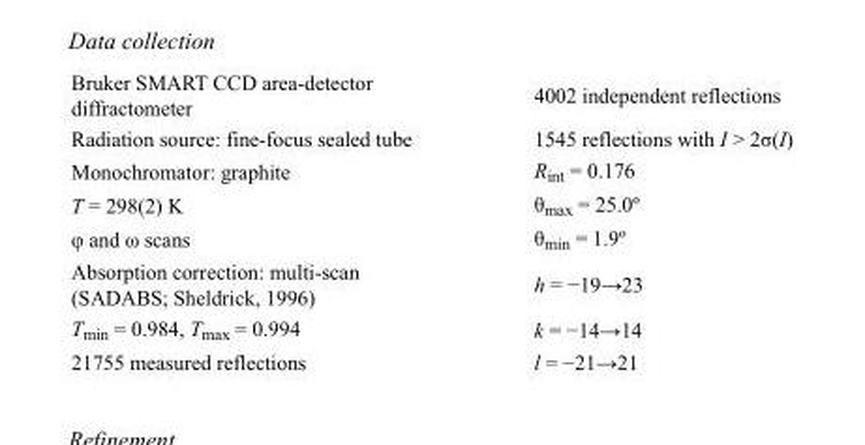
<table><tbody><tr><td>Bruker SMART CCD area-detector diffractometer</td><td>4002 independent reflections</td></tr><tr><td>Radiation source: fine-focus sealed tube</td><td>1545 reflections with I &gt; 2σ(I)</td></tr><tr><td>Monochromator: graphite</td><td>R<sub>int</sub> = 0.176</td></tr><tr><td>T = 298(2) K</td><td>θ<sub>max</sub> = 25.0º</td></tr><tr><td>φ and ω scans</td><td>θ<sub>min</sub> = 1.9º</td></tr><tr><td>Absorption correction: multi-scan (SADABS; Sheldrick, 1996)</td><td>h = −19→23</td></tr><tr><td>T<sub>min</sub> = 0.984, T<sub>max</sub> = 0.994</td><td>k = −14→14</td></tr><tr><td>21755 measured reflections</td><td>l = −21→21</td></tr></tbody></table>